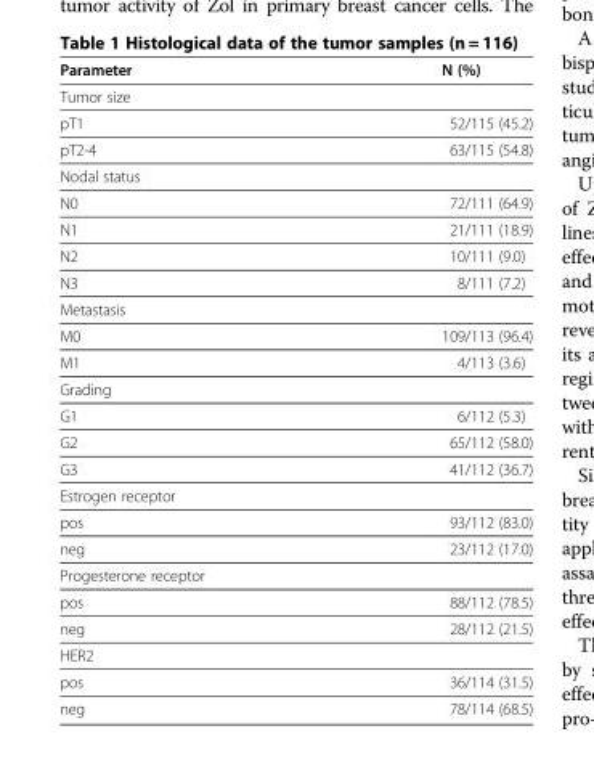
<table><thead><tr><td>Parameter</td><td>N (%)</td></tr></thead><tbody><tr><td colspan="2">Tumor size</td></tr><tr><td>pT1</td><td>52/115 (45.2)</td></tr><tr><td>pT2-4</td><td>63/115 (54.8)</td></tr><tr><td colspan="2">Nodal status</td></tr><tr><td>N0</td><td>72/111 (64.9)</td></tr><tr><td>N1</td><td>21/111 (18.9)</td></tr><tr><td>N2</td><td>10/111 (9.0)</td></tr><tr><td>N3</td><td>8/111 (7.2)</td></tr><tr><td colspan="2">Metastasis</td></tr><tr><td>M0</td><td>109/113 (96.4)</td></tr><tr><td>M1</td><td>4/113 (3.6)</td></tr><tr><td colspan="2">Grading</td></tr><tr><td>G1</td><td>6/112 (5.3)</td></tr><tr><td>G2</td><td>65/112 (58.0)</td></tr><tr><td>G3</td><td>41/112 (36.7)</td></tr><tr><td colspan="2">Estrogen receptor</td></tr><tr><td>pos</td><td>93/112 (83.0)</td></tr><tr><td>neg</td><td>23/112 (17.0)</td></tr><tr><td colspan="2">Progesterone receptor</td></tr><tr><td>pos</td><td>88/112 (78.5)</td></tr><tr><td>neg</td><td>28/112 (21.5)</td></tr><tr><td colspan="2">HER2</td></tr><tr><td>pos</td><td>36/114 (31.5)</td></tr><tr><td>neg</td><td>78/114 (68.5)</td></tr></tbody></table>